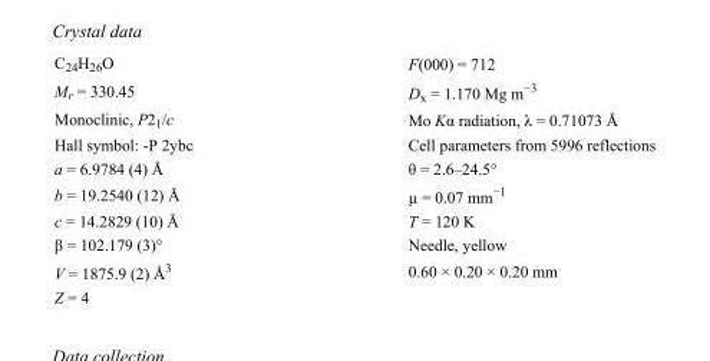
<table><tbody><tr><td>C<sub>24</sub>H<sub>26</sub>O</td><td>F(000) = 712</td></tr><tr><td>M<sub>r</sub> = 330.45</td><td>D<sub>x</sub> = 1.170 Mg m<sup>−3</sup></td></tr><tr><td>Monoclinic, P2<sub>1</sub>/c</td><td>Mo Kα radiation, λ = 0.71073 Å</td></tr><tr><td>Hall symbol: -P 2ybc</td><td>Cell parameters from 5996 reflections</td></tr><tr><td>a = 6.9784 (4) Å</td><td>θ = 2.6–24.5°</td></tr><tr><td>b = 19.2540 (12) Å</td><td>µ = 0.07 mm<sup>−1</sup></td></tr><tr><td>c = 14.2829 (10) Å</td><td>T = 120 K</td></tr><tr><td>β = 102.179 (3)°</td><td>Needle, yellow</td></tr><tr><td>V = 1875.9 (2) Å<sup>3</sup></td><td>0.60 × 0.20 × 0.20 mm</td></tr><tr><td>Z = 4</td><td></td></tr></tbody></table>